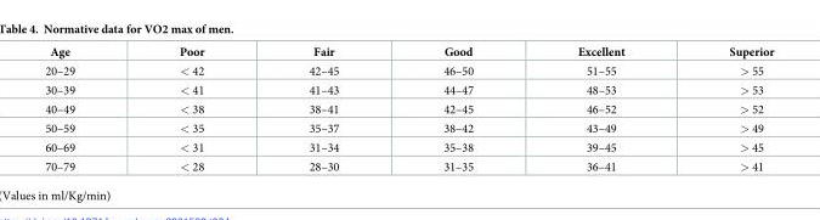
<table><thead><tr><td>Age</td><td>Poor</td><td>Fair</td><td>Good</td><td>Excellent</td><td>Superior</td></tr></thead><tbody><tr><td>20–29</td><td>&lt; 42</td><td>42–45</td><td>46–50</td><td>51–55</td><td>&gt; 55</td></tr><tr><td>30–39</td><td>&lt; 41</td><td>41–43</td><td>44–47</td><td>48–53</td><td>&gt; 53</td></tr><tr><td>40–49</td><td>&lt; 38</td><td>38–41</td><td>42–45</td><td>46–52</td><td>&gt; 52</td></tr><tr><td>50–59</td><td>&lt; 35</td><td>35–37</td><td>38–42</td><td>43–49</td><td>&gt; 49</td></tr><tr><td>60–69</td><td>&lt; 31</td><td>31–34</td><td>35–38</td><td>39–45</td><td>&gt; 45</td></tr><tr><td>70–79</td><td>&lt; 28</td><td>28–30</td><td>31–35</td><td>36–41</td><td>&gt; 41</td></tr></tbody></table>